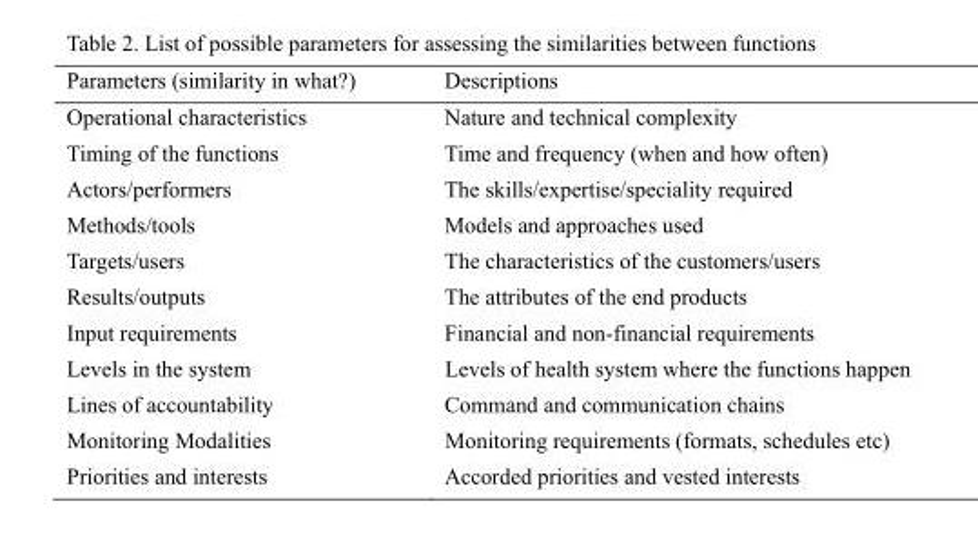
<table><thead><tr><td>Parameters (similarity in what?)</td><td>Descriptions</td></tr></thead><tbody><tr><td>Operational characteristics</td><td>Nature and technical complexity</td></tr><tr><td>Timing of the functions</td><td>Time and frequency (when and how often)</td></tr><tr><td>Actors/performers</td><td>The skills/expertise/speciality required</td></tr><tr><td>Methods/tools</td><td>Models and approaches used</td></tr><tr><td>Targets/users</td><td>The characteristics of the customers/users</td></tr><tr><td>Results/outputs</td><td>The attributes of the end products</td></tr><tr><td>Input requirements</td><td>Financial and non-financial requirements</td></tr><tr><td>Levels in the system</td><td>Levels of health system where the functions happen</td></tr><tr><td>Lines of accountability</td><td>Command and communication chains</td></tr><tr><td>Monitoring Modalities</td><td>Monitoring requirements (formats, schedules etc)</td></tr><tr><td>Priorities and interests</td><td>Accorded priorities and vested interests</td></tr></tbody></table>